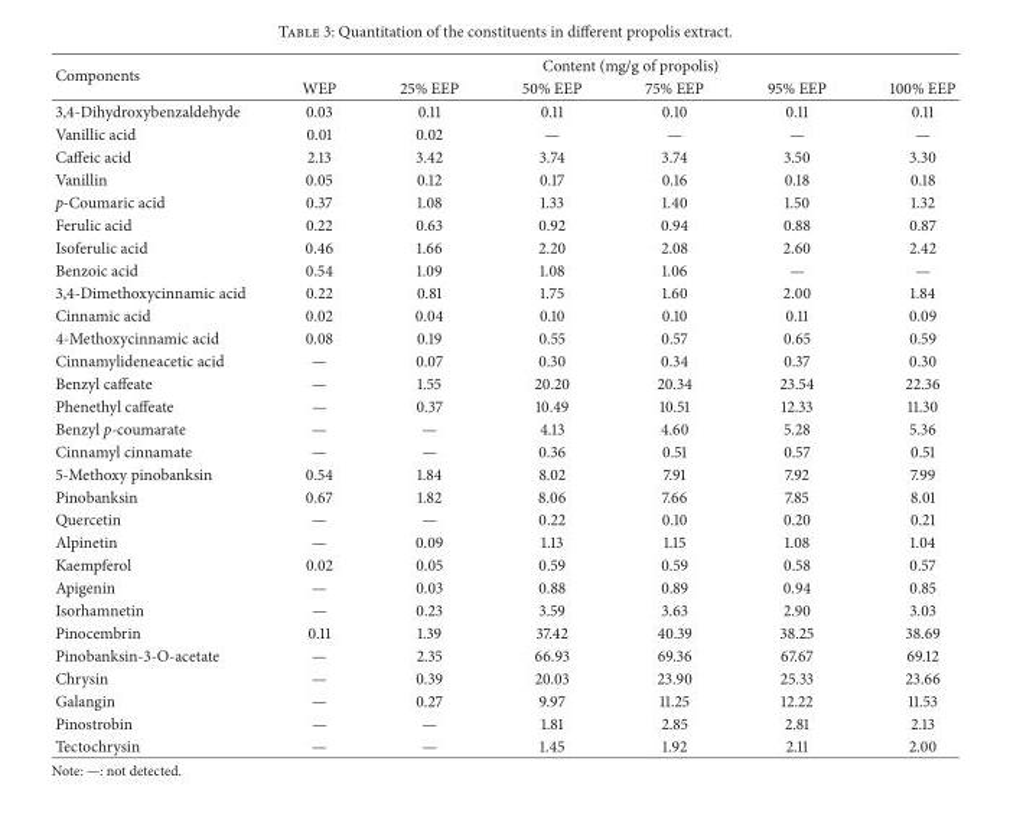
<table><thead><tr><td rowspan="2">Components</td><td colspan="6">Content (mg/g of propolis)</td></tr><tr><td>WEP</td><td>25% EEP</td><td>50% EEP</td><td>75% EEP</td><td>95% EEP</td><td>100% EEP</td></tr></thead><tbody><tr><td>3,4-Dihydroxybenzaldehyde</td><td>0.03</td><td>0.11</td><td>0.11</td><td>0.10</td><td>0.11</td><td>0.11</td></tr><tr><td>Vanillic acid</td><td>0.01</td><td>0.02</td><td>—</td><td>—</td><td>—</td><td>—</td></tr><tr><td>Caffeic acid</td><td>2.13</td><td>3.42</td><td>3.74</td><td>3.74</td><td>3.50</td><td>3.30</td></tr><tr><td>Vanillin</td><td>0.05</td><td>0.12</td><td>0.17</td><td>0.16</td><td>0.18</td><td>0.18</td></tr><tr><td>p-Coumaric acid</td><td>0.37</td><td>1.08</td><td>1.33</td><td>1.40</td><td>1.50</td><td>1.32</td></tr><tr><td>Ferulic acid</td><td>0.22</td><td>0.63</td><td>0.92</td><td>0.94</td><td>0.88</td><td>0.87</td></tr><tr><td>Isoferulic acid</td><td>0.46</td><td>1.66</td><td>2.20</td><td>2.08</td><td>2.60</td><td>2.42</td></tr><tr><td>Benzoic acid</td><td>0.54</td><td>1.09</td><td>1.08</td><td>1.06</td><td>—</td><td>—</td></tr><tr><td>3,4-Dimethoxycinnamic acid</td><td>0.22</td><td>0.81</td><td>1.75</td><td>1.60</td><td>2.00</td><td>1.84</td></tr><tr><td>Cinnamic acid</td><td>0.02</td><td>0.04</td><td>0.10</td><td>0.10</td><td>0.11</td><td>0.09</td></tr><tr><td>4-Methoxycinnamic acid</td><td>0.08</td><td>0.19</td><td>0.55</td><td>0.57</td><td>0.65</td><td>0.59</td></tr><tr><td>Cinnamylideneacetic acid</td><td>—</td><td>0.07</td><td>0.30</td><td>0.34</td><td>0.37</td><td>0.30</td></tr><tr><td>Benzyl caffeate</td><td>—</td><td>1.55</td><td>20.20</td><td>20.34</td><td>23.54</td><td>22.36</td></tr><tr><td>Phenethyl caffeate</td><td>—</td><td>0.37</td><td>10.49</td><td>10.51</td><td>12.33</td><td>11.30</td></tr><tr><td>Benzyl p-coumarate</td><td>—</td><td>—</td><td>4.13</td><td>4.60</td><td>5.28</td><td>5.36</td></tr><tr><td>Cinnamyl cinnamate</td><td>—</td><td>—</td><td>0.36</td><td>0.51</td><td>0.57</td><td>0.51</td></tr><tr><td>5-Methoxy pinobanksin</td><td>0.54</td><td>1.84</td><td>8.02</td><td>7.91</td><td>7.92</td><td>7.99</td></tr><tr><td>Pinobanksin</td><td>0.67</td><td>1.82</td><td>8.06</td><td>7.66</td><td>7.85</td><td>8.01</td></tr><tr><td>Quercetin</td><td>—</td><td>—</td><td>0.22</td><td>0.10</td><td>0.20</td><td>0.21</td></tr><tr><td>Alpinetin</td><td>—</td><td>0.09</td><td>1.13</td><td>1.15</td><td>1.08</td><td>1.04</td></tr><tr><td>Kaempferol</td><td>0.02</td><td>0.05</td><td>0.59</td><td>0.59</td><td>0.58</td><td>0.57</td></tr><tr><td>Apigenin</td><td>—</td><td>0.03</td><td>0.88</td><td>0.89</td><td>0.94</td><td>0.85</td></tr><tr><td>Isorhamnetin</td><td>—</td><td>0.23</td><td>3.59</td><td>3.63</td><td>2.90</td><td>3.03</td></tr><tr><td>Pinocembrin</td><td>0.11</td><td>1.39</td><td>37.42</td><td>40.39</td><td>38.25</td><td>38.69</td></tr><tr><td>Pinobanksin-3-O-acetate</td><td>—</td><td>2.35</td><td>66.93</td><td>69.36</td><td>67.67</td><td>69.12</td></tr><tr><td>Chrysin</td><td>—</td><td>0.39</td><td>20.03</td><td>23.90</td><td>25.33</td><td>23.66</td></tr><tr><td>Galangin</td><td>—</td><td>0.27</td><td>9.97</td><td>11.25</td><td>12.22</td><td>11.53</td></tr><tr><td>Pinostrobin</td><td>—</td><td>—</td><td>1.81</td><td>2.85</td><td>2.81</td><td>2.13</td></tr><tr><td>Tectochrysin</td><td>—</td><td>—</td><td>1.45</td><td>1.92</td><td>2.11</td><td>2.00</td></tr></tbody></table>